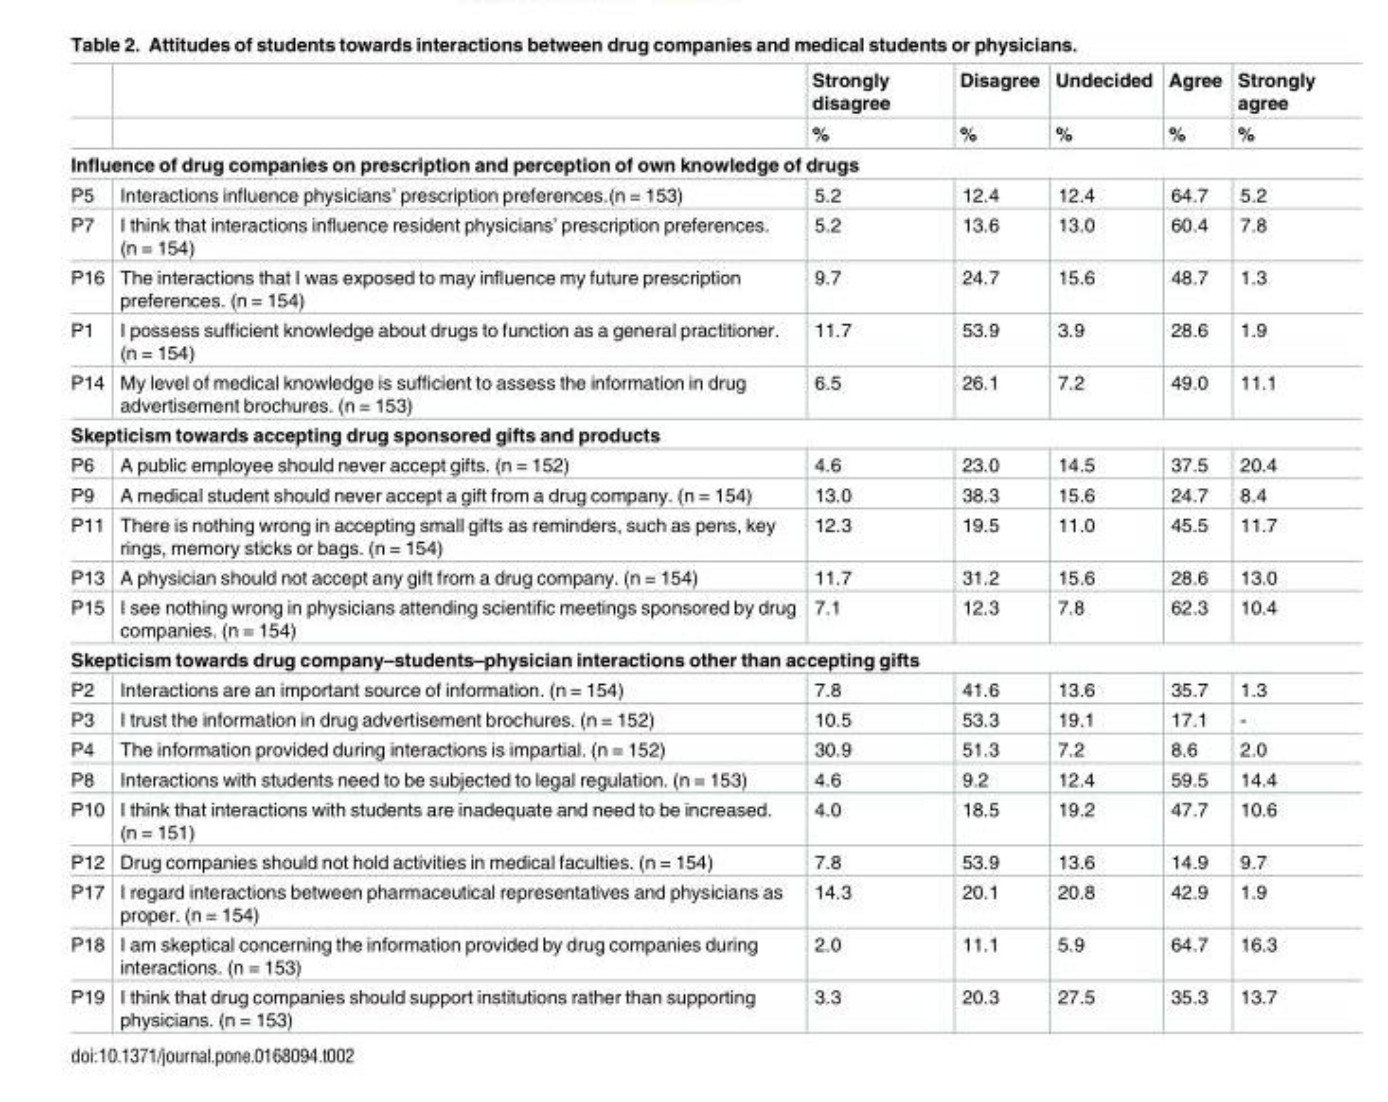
<table><thead><tr><td rowspan="2"></td><td rowspan="2"></td><td rowspan="2">Strongly disagree %</td><td rowspan="2">Disagree %</td><td rowspan="2">Undecided %</td><td rowspan="2">Agree %</td><td rowspan="2">Strongly agree %</td></tr><tr></tr></thead><tbody><tr><td colspan="7">Influence of drug companies on prescription and perception of own knowledge of drugs</td></tr><tr><td>P5</td><td>Interactions influence physicians’ prescription preferences.(n = 153)</td><td>5.2</td><td>12.4</td><td>12.4</td><td>64.7</td><td>5.2</td></tr><tr><td>P7</td><td>I think that interactions influence resident physicians’ prescription preferences. (n = 154)</td><td>5.2</td><td>13.6</td><td>13.0</td><td>60.4</td><td>7.8</td></tr><tr><td>P16</td><td>The interactions that I was exposed to may influence my future prescription preferences. (n = 154)</td><td>9.7</td><td>24.7</td><td>15.6</td><td>48.7</td><td>1.3</td></tr><tr><td>P1</td><td>I possess sufficient knowledge about drugs to function as a general practitioner. (n = 154)</td><td>11.7</td><td>53.9</td><td>3.9</td><td>28.6</td><td>1.9</td></tr><tr><td>P14</td><td>My level of medical knowledge is sufficient to assess the information in drug advertisement brochures. (n = 153)</td><td>6.5</td><td>26.1</td><td>7.2</td><td>49.0</td><td>11.1</td></tr><tr><td colspan="7">Skepticism towards accepting drug sponsored gifts and products</td></tr><tr><td>P6</td><td>A public employee should never accept gifts. (n = 152)</td><td>4.6</td><td>23.0</td><td>14.5</td><td>37.5</td><td>20.4</td></tr><tr><td>P9</td><td>A medical student should never accept a gift from a drug company. (n = 154)</td><td>13.0</td><td>38.3</td><td>15.6</td><td>24.7</td><td>8.4</td></tr><tr><td>P11</td><td>There is nothing wrong in accepting small gifts as reminders, such as pens, key rings, memory sticks or bags. (n = 154)</td><td>12.3</td><td>19.5</td><td>11.0</td><td>45.5</td><td>11.7</td></tr><tr><td>P13</td><td>A physician should not accept any gift from a drug company. (n = 154)</td><td>11.7</td><td>31.2</td><td>15.6</td><td>28.6</td><td>13.0</td></tr><tr><td>P15</td><td>I see nothing wrong in physicians attending scientific meetings sponsored by drug companies. (n = 154)</td><td>7.1</td><td>12.3</td><td>7.8</td><td>62.3</td><td>10.4</td></tr><tr><td colspan="7">Skepticism towards drug company–students–physician interactions other than accepting gifts</td></tr><tr><td>P2</td><td>Interactions are an important source of information. (n = 154)</td><td>7.8</td><td>41.6</td><td>13.6</td><td>35.7</td><td>1.3</td></tr><tr><td>P3</td><td>I trust the information in drug advertisement brochures. (n = 152)</td><td>10.5</td><td>53.3</td><td>19.1</td><td>17.1</td><td>-</td></tr><tr><td>P4</td><td>The information provided during interactions is impartial. (n = 152)</td><td>30.9</td><td>51.3</td><td>7.2</td><td>8.6</td><td>2.0</td></tr><tr><td>P8</td><td>Interactions with students need to be subjected to legal regulation. (n = 153)</td><td>4.6</td><td>9.2</td><td>12.4</td><td>59.5</td><td>14.4</td></tr><tr><td>P10</td><td>I think that interactions with students are inadequate and need to be increased. (n = 151)</td><td>4.0</td><td>18.5</td><td>19.2</td><td>47.7</td><td>10.6</td></tr><tr><td>P12</td><td>Drug companies should not hold activities in medical faculties. (n = 154)</td><td>7.8</td><td>53.9</td><td>13.6</td><td>14.9</td><td>9.7</td></tr><tr><td>P17</td><td>I regard interactions between pharmaceutical representatives and physicians as proper. (n = 154)</td><td>14.3</td><td>20.1</td><td>20.8</td><td>42.9</td><td>1.9</td></tr><tr><td>P18</td><td>I am skeptical concerning the information provided by drug companies during interactions. (n = 153)</td><td>2.0</td><td>11.1</td><td>5.9</td><td>64.7</td><td>16.3</td></tr><tr><td>P19</td><td>I think that drug companies should support institutions rather than supporting physicians. (n = 153)</td><td>3.3</td><td>20.3</td><td>27.5</td><td>35.3</td><td>13.7</td></tr></tbody></table>